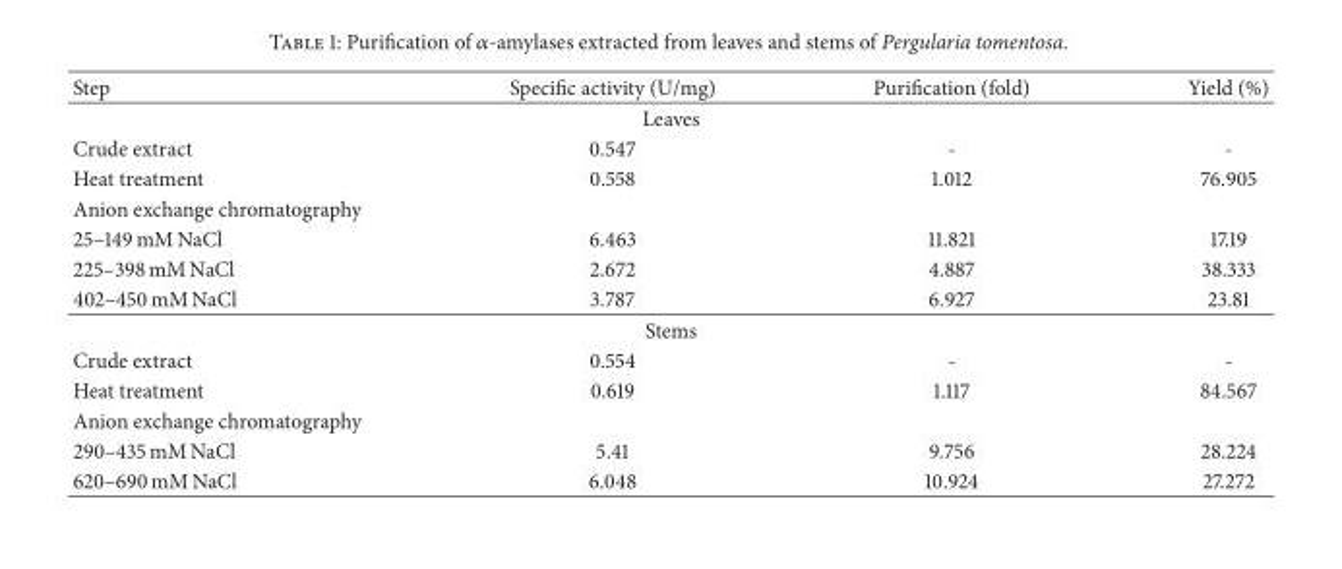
<table><thead><tr><td>Step</td><td>Specific activity (U/mg)</td><td>Purification (fold)</td><td>Yield (%)</td></tr></thead><tbody><tr><td colspan="4">Leaves</td></tr><tr><td>Crude extract</td><td>0.547</td><td>-</td><td>-</td></tr><tr><td>Heat treatment</td><td>0.558</td><td>1.012</td><td>76.905</td></tr><tr><td colspan="4">Anion exchange chromatography</td></tr><tr><td>25–149 mM NaCl</td><td>6.463</td><td>11.821</td><td>17.19</td></tr><tr><td>225–398 mM NaCl</td><td>2.672</td><td>4.887</td><td>38.333</td></tr><tr><td>402–450 mM NaCl</td><td>3.787</td><td>6.927</td><td>23.81</td></tr><tr><td colspan="4">Stems</td></tr><tr><td>Crude extract</td><td>0.554</td><td>-</td><td>-</td></tr><tr><td>Heat treatment</td><td>0.619</td><td>1.117</td><td>84.567</td></tr><tr><td colspan="4">Anion exchange chromatography</td></tr><tr><td>290–435 mM NaCl</td><td>5.41</td><td>9.756</td><td>28.224</td></tr><tr><td>620–690 mM NaCl</td><td>6.048</td><td>10.924</td><td>27.272</td></tr></tbody></table>